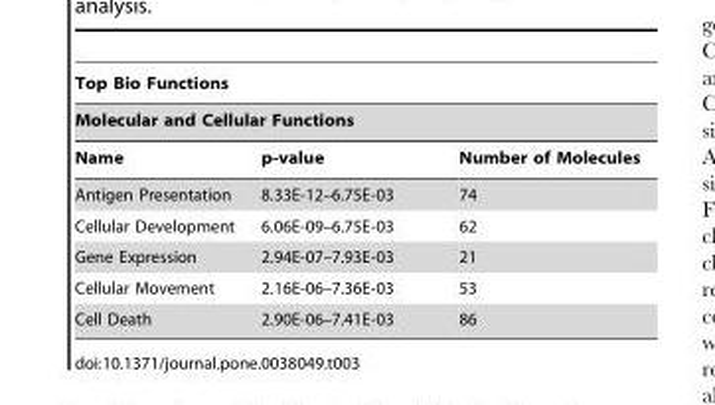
<table><thead><tr><td rowspan="2" colspan="3">Top Bio Functions Molecular and Cellular Functions</td></tr><tr></tr><tr><td>Name</td><td>p-value</td><td>Number of Molecules</td></tr></thead><tbody><tr><td>Antigen Presentation</td><td>8.33E-12–6.75E-03</td><td>74</td></tr><tr><td>Cellular Development</td><td>6.06E-09–6.75E-03</td><td>62</td></tr><tr><td>Gene Expression</td><td>2.94E-07–7.93E-03</td><td>21</td></tr><tr><td>Cellular Movement</td><td>2.16E-06–7.36E-03</td><td>53</td></tr><tr><td>Cell Death</td><td>2.90E-06–7.41E-03</td><td>86</td></tr></tbody></table>